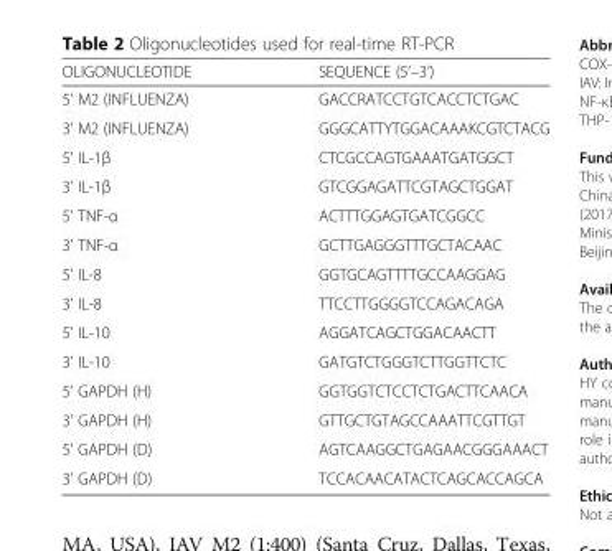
<table><thead><tr><td>OLIGONUCLEOTIDE</td><td>SEQUENCE (5’–3’)</td></tr></thead><tbody><tr><td>5’ M2 (INFLUENZA)</td><td>GACCRATCCTGTCACCTCTGAC</td></tr><tr><td>3’ M2 (INFLUENZA)</td><td>GGGCATTYTGGACAAAKCGTCTACG</td></tr><tr><td>5’ IL-1β</td><td>CTCGCCAGTGAAATGATGGCT</td></tr><tr><td>3’ IL-1β</td><td>GTCGGAGATTCGTAGCTGGAT</td></tr><tr><td>5’ TNF-α</td><td>ACTTTGGAGTGATCGGCC</td></tr><tr><td>3’ TNF-α</td><td>GCTTGAGGGTTTGCTACAAC</td></tr><tr><td>5’ IL-8</td><td>GGTGCAGTTTTGCCAAGGAG</td></tr><tr><td>3’ IL-8</td><td>TTCCTTGGGGTCCAGACAGA</td></tr><tr><td>5’ IL-10</td><td>AGGATCAGCTGGACAACTT</td></tr><tr><td>3’ IL-10</td><td>GATGTCTGGGTCTTGGTTCTC</td></tr><tr><td>5’ GAPDH (H)</td><td>GGTGGTCTCCTCTGACTTCAACA</td></tr><tr><td>3’ GAPDH (H)</td><td>GTTGCTGTAGCCAAATTCGTTGT</td></tr><tr><td>5’ GAPDH (D)</td><td>AGTCAAGGCTGAGAACGGGAAACT</td></tr><tr><td>3’ GAPDH (D)</td><td>TCCACAACATACTCAGCACCAGCA</td></tr></tbody></table>